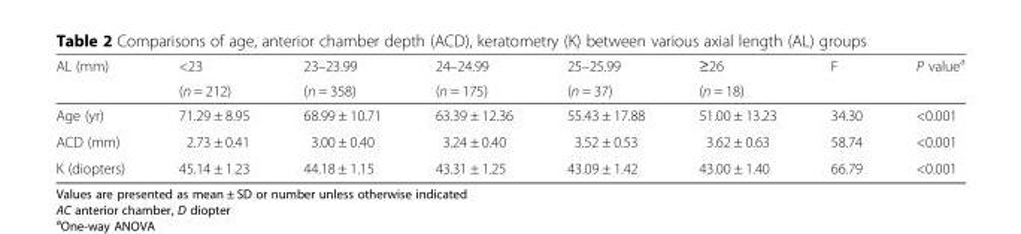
<table><thead><tr><td rowspan="2">AL (mm)</td><td rowspan="2">&lt;23 (n = 212)</td><td rowspan="2">23–23.99 (n = 358)</td><td rowspan="2">24–24.99 (n = 175)</td><td rowspan="2">25–25.99 (n = 37)</td><td rowspan="2">≥26 (n = 18)</td><td rowspan="2">F</td><td rowspan="2">P value<sup>a</sup></td></tr><tr></tr></thead><tbody><tr><td>Age (yr)</td><td>71.29 ± 8.95</td><td>68.99 ± 10.71</td><td>63.39 ± 12.36</td><td>55.43 ± 17.88</td><td>51.00 ± 13.23</td><td>34.30</td><td>&lt;0.001</td></tr><tr><td>ACD (mm)</td><td>2.73 ± 0.41</td><td>3.00 ± 0.40</td><td>3.24 ± 0.40</td><td>3.52 ± 0.53</td><td>3.62 ± 0.63</td><td>58.74</td><td>&lt;0.001</td></tr><tr><td>K (diopters)</td><td>45.14 ± 1.23</td><td>44.18 ± 1.15</td><td>43.31 ± 1.25</td><td>43.09 ± 1.42</td><td>43.00 ± 1.40</td><td>66.79</td><td>&lt;0.001</td></tr></tbody></table>